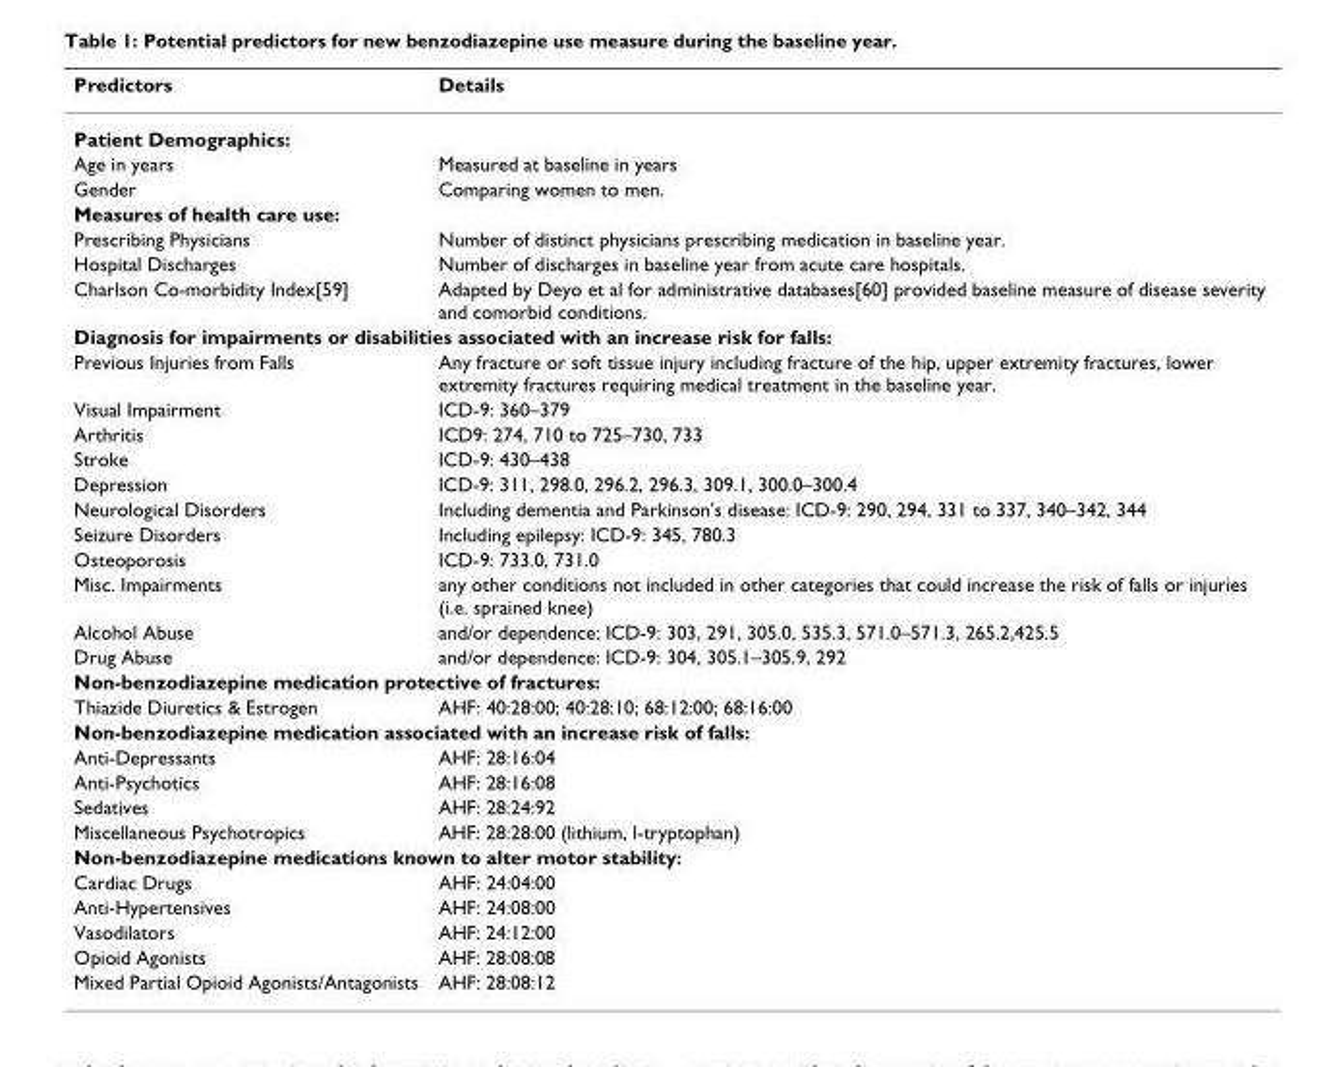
<table><thead><tr><td>Predictors</td><td>Details</td></tr></thead><tbody><tr><td colspan="2">Patient Demographics:</td></tr><tr><td>Age in years</td><td>Measured at baseline in years</td></tr><tr><td>Gender</td><td>Comparing women to men.</td></tr><tr><td colspan="2">Measures of health care use:</td></tr><tr><td>Prescribing Physicians</td><td>Number of distinct physicians prescribing medication in baseline year.</td></tr><tr><td>Hospital Discharges</td><td>Number of discharges in baseline year from acute care hospitals.</td></tr><tr><td>Charlson Co-morbidity Index[59]</td><td>Adapted by Deyo et al for administrative databases[60] provided baseline measure of disease severity and comorbid conditions.</td></tr><tr><td colspan="2">Diagnosis for impairments or disabilities associated with an increase risk for falls:</td></tr><tr><td>Previous Injuries from Falls</td><td>Any fracture or soft tissue injury including fracture of the hip, upper extremity fractures, lower extremity fractures requiring medical treatment in the baseline year.</td></tr><tr><td>Visual Impairment</td><td>ICD-9: 360–379</td></tr><tr><td>Arthritis</td><td>ICD9: 274, 710 to 725–730, 733</td></tr><tr><td>Stroke</td><td>ICD-9: 430–438</td></tr><tr><td>Depression</td><td>ICD-9: 311, 298.0, 296.2, 296.3, 309.1, 300.0–300.4</td></tr><tr><td>Neurological Disorders</td><td>Including dementia and Parkinson&#x27;s disease: ICD-9: 290, 294, 331 to 337, 340–342, 344</td></tr><tr><td>Seizure Disorders</td><td>Including epilepsy: ICD-9: 345, 780.3</td></tr><tr><td>Osteoporosis</td><td>ICD-9: 733.0, 731.0</td></tr><tr><td>Misc. Impairments</td><td>any other conditions not included in other categories that could increase the risk of falls or injuries (i.e. sprained knee)</td></tr><tr><td>Alcohol Abuse</td><td>and/or dependence: ICD-9: 303, 291, 305.0, 535.3, 571.0–571.3, 265.2,425.5</td></tr><tr><td>Drug Abuse</td><td>and/or dependence: ICD-9: 304, 305.1–305.9, 292</td></tr><tr><td colspan="2">Non-benzodiazepine medication protective of fractures:</td></tr><tr><td>Thiazide Diuretics &amp; Estrogen</td><td>AHF: 40:28:00; 40:28:10; 68:12:00; 68:16:00</td></tr><tr><td colspan="2">Non-benzodiazepine medication associated with an increase risk of falls:</td></tr><tr><td>Anti-Depressants</td><td>AHF: 28:16:04</td></tr><tr><td>Anti-Psychotics</td><td>AHF: 28:16:08</td></tr><tr><td>Sedatives</td><td>AHF: 28:24:92</td></tr><tr><td>Miscellaneous Psychotropics</td><td>AHF: 28:28:00 (lithium, l-tryptophan)</td></tr><tr><td colspan="2">Non-benzodiazepine medications known to alter motor stability:</td></tr><tr><td>Cardiac Drugs</td><td>AHF: 24:04:00</td></tr><tr><td>Anti-Hypertensives</td><td>AHF: 24:08:00</td></tr><tr><td>Vasodilators</td><td>AHF: 24:12:00</td></tr><tr><td>Opioid Agonists</td><td>AHF: 28:08:08</td></tr><tr><td>Mixed Partial Opioid Agonists/Antagonists</td><td>AHF: 28:08:12</td></tr></tbody></table>